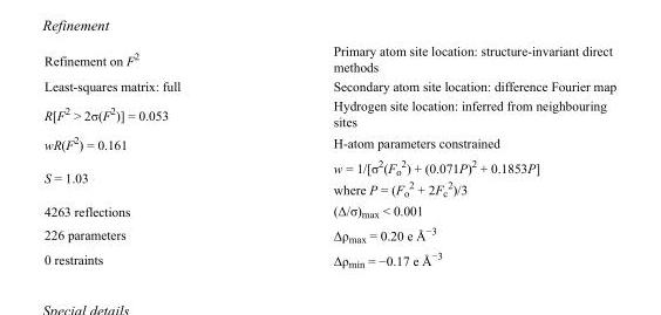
<table><tbody><tr><td>Refinement on F<sup>2</sup></td><td>Primary atom site location: structure-invariant direct methods</td></tr><tr><td>Least-squares matrix: full</td><td>Secondary atom site location: difference Fourier map</td></tr><tr><td>R[F<sup>2</sup> &gt; 2σ(F<sup>2</sup>)] = 0.053</td><td>Hydrogen site location: inferred from neighbouring sites</td></tr><tr><td>wR(F<sup>2</sup>) = 0.161</td><td>H-atom parameters constrained</td></tr><tr><td>S = 1.03</td><td>w = 1/[σ<sup>2</sup>(F<sub>o</sub> <sup>2</sup>) + (0.071P)<sup>2</sup> + 0.1853P] where P = (F<sub>o</sub> <sup>2</sup> + 2F<sub>c</sub> <sup>2</sup>)/3</td></tr><tr><td>4263 reflections</td><td>(Δ/σ)<sub>max</sub> &lt; 0.001</td></tr><tr><td>226 parameters</td><td>Δρ<sub>max</sub> = 0.20 e Å<sup>−3</sup></td></tr><tr><td>0 restraints</td><td>Δρ<sub>min</sub> = −0.17 e Å<sup>−3</sup></td></tr></tbody></table>